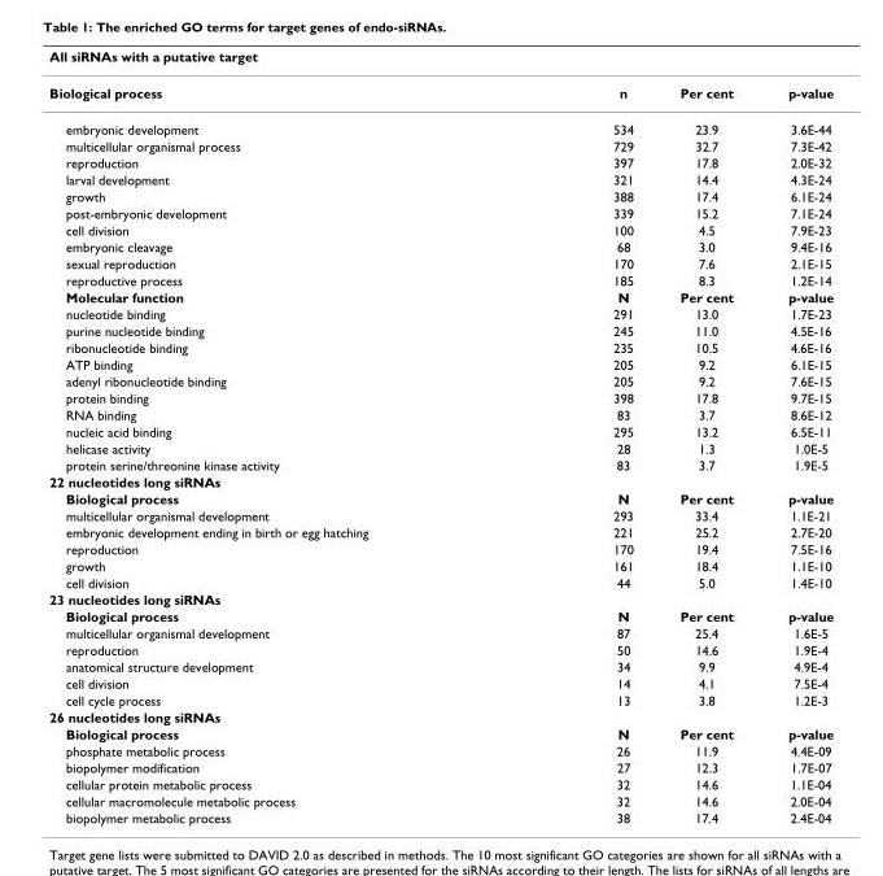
<table><thead><tr><td colspan="4">All siRNAs with a putative target</td></tr><tr><td>Biological process</td><td>n</td><td>Per cent</td><td>p-value</td></tr></thead><tbody><tr><td>embryonic development</td><td>534</td><td>23.9</td><td>3.6E-44</td></tr><tr><td>multicellular organismal process</td><td>729</td><td>32.7</td><td>7.3E-42</td></tr><tr><td>reproduction</td><td>397</td><td>17.8</td><td>2.0E-32</td></tr><tr><td>larval development</td><td>321</td><td>14.4</td><td>4.3E-24</td></tr><tr><td>growth</td><td>388</td><td>17.4</td><td>6.1E-24</td></tr><tr><td>post-embryonic development</td><td>339</td><td>15.2</td><td>7.1E-24</td></tr><tr><td>cell division</td><td>100</td><td>4.5</td><td>7.9E-23</td></tr><tr><td>embryonic cleavage</td><td>68</td><td>3.0</td><td>9.4E-16</td></tr><tr><td>sexual reproduction</td><td>170</td><td>7.6</td><td>2.1E-15</td></tr><tr><td>reproductive process</td><td>185</td><td>8.3</td><td>1.2E-14</td></tr><tr><td>Molecular function</td><td>N</td><td>Per cent</td><td>p-value</td></tr><tr><td>nucleotide binding</td><td>291</td><td>13.0</td><td>1.7E-23</td></tr><tr><td>purine nucleotide binding</td><td>245</td><td>11.0</td><td>4.5E-16</td></tr><tr><td>ribonucleotide binding</td><td>235</td><td>10.5</td><td>4.6E-16</td></tr><tr><td>ATP binding</td><td>205</td><td>9.2</td><td>6.1E-15</td></tr><tr><td>adenyl ribonucleotide binding</td><td>205</td><td>9.2</td><td>7.6E-15</td></tr><tr><td>protein binding</td><td>398</td><td>17.8</td><td>9.7E-15</td></tr><tr><td>RNA binding</td><td>83</td><td>3.7</td><td>8.6E-12</td></tr><tr><td>nucleic acid binding</td><td>295</td><td>13.2</td><td>6.5E-11</td></tr><tr><td>helicase activity</td><td>28</td><td>1.3</td><td>1.0E-5</td></tr><tr><td>protein serine/threonine kinase activity</td><td>83</td><td>3.7</td><td>1.9E-5</td></tr><tr><td colspan="4">22 nucleotides long siRNAs</td></tr><tr><td>Biological process</td><td>N</td><td>Per cent</td><td>p-value</td></tr><tr><td>multicellular organismal development</td><td>293</td><td>33.4</td><td>1.1E-21</td></tr><tr><td>embryonic development ending in birth or egg hatching</td><td>221</td><td>25.2</td><td>2.7E-20</td></tr><tr><td>reproduction</td><td>170</td><td>19.4</td><td>7.5E-16</td></tr><tr><td>growth</td><td>161</td><td>18.4</td><td>1.1E-10</td></tr><tr><td>cell division</td><td>44</td><td>5.0</td><td>1.4E-10</td></tr><tr><td colspan="4">23 nucleotides long siRNAs</td></tr><tr><td>Biological process</td><td>N</td><td>Per cent</td><td>p-value</td></tr><tr><td>multicellular organismal development</td><td>87</td><td>25.4</td><td>1.6E-5</td></tr><tr><td>reproduction</td><td>50</td><td>14.6</td><td>1.9E-4</td></tr><tr><td>anatomical structure development</td><td>34</td><td>9.9</td><td>4.9E-4</td></tr><tr><td>cell division</td><td>14</td><td>4.1</td><td>7.5E-4</td></tr><tr><td>cell cycle process</td><td>13</td><td>3.8</td><td>1.2E-3</td></tr><tr><td colspan="4">26 nucleotides long siRNAs</td></tr><tr><td>Biological process</td><td>N</td><td>Per cent</td><td>p-value</td></tr><tr><td>phosphate metabolic process</td><td>26</td><td>11.9</td><td>4.4E-09</td></tr><tr><td>biopolymer modification</td><td>27</td><td>12.3</td><td>1.7E-07</td></tr><tr><td>cellular protein metabolic process</td><td>32</td><td>14.6</td><td>1.1E-04</td></tr><tr><td>cellular macromolecule metabolic process</td><td>32</td><td>14.6</td><td>2.0E-04</td></tr><tr><td>biopolymer metabolic process</td><td>38</td><td>17.4</td><td>2.4E-04</td></tr></tbody></table>